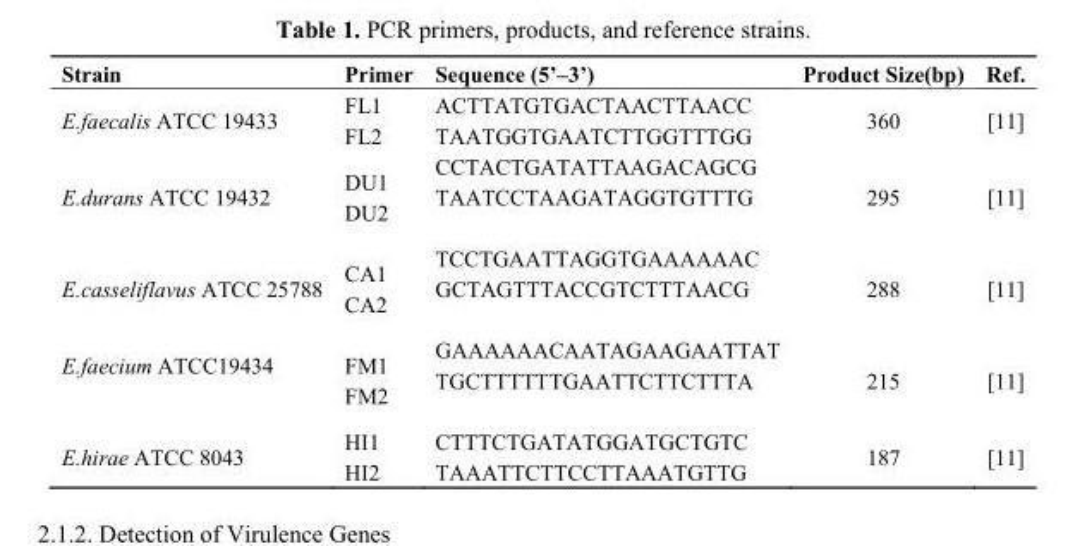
<table><thead><tr><td>Strain</td><td>Primer</td><td>Sequence (5’–3’)</td><td>Product Size(bp)</td><td>Ref.</td></tr></thead><tbody><tr><td>E.faecalis ATCC 19433</td><td>FL1 FL2</td><td>ACTTATGTGACTAACTTAACC TAATGGTGAATCTTGGTTTGG</td><td>360</td><td>[11]</td></tr><tr><td>E.durans ATCC 19432</td><td>DU1 DU2</td><td>CCTACTGATATTAAGACAGCG TAATCCTAAGATAGGTGTTTG</td><td>295</td><td>[11]</td></tr><tr><td>E.casseliflavus ATCC 25788</td><td>CA1 CA2</td><td>TCCTGAATTAGGTGAAAAAAC GCTAGTTTACCGTCTTTAACG</td><td>288</td><td>[11]</td></tr><tr><td>E.faecium ATCC19434</td><td>FM1 FM2</td><td>GAAAAAACAATAGAAGAATTAT TGCTTTTTTGAATTCTTCTTTA</td><td>215</td><td>[11]</td></tr><tr><td>E.hirae ATCC 8043</td><td>HI1 HI2</td><td>CTTTCTGATATGGATGCTGTC TAAATTCTTCCTTAAATGTTG</td><td>187</td><td>[11]</td></tr></tbody></table>